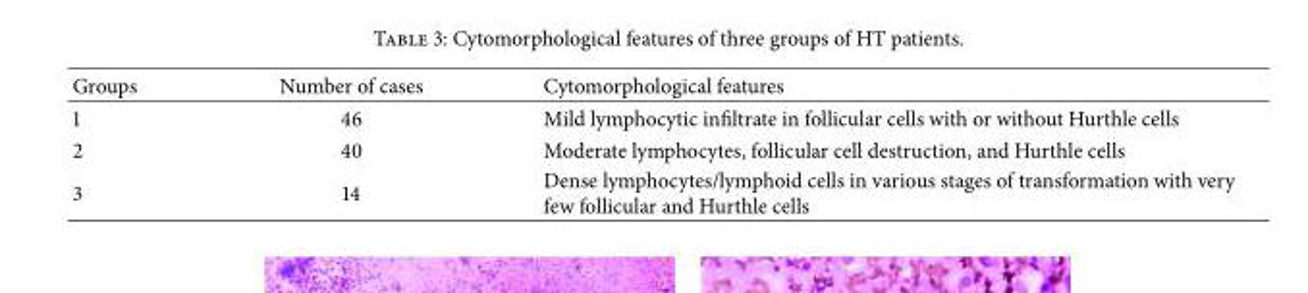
<table><thead><tr><td>Groups</td><td>Number of cases</td><td>Cytomorphological features</td></tr></thead><tbody><tr><td>1</td><td>46</td><td>Mild lymphocytic infiltrate in follicular cells with or without Hurthle cells</td></tr><tr><td>2</td><td>40</td><td>Moderate lymphocytes, follicular cell destruction, and Hurthle cells</td></tr><tr><td>3</td><td>14</td><td>Dense lymphocytes/lymphoid cells in various stages of transformation with very few follicular and Hurthle cells</td></tr></tbody></table>